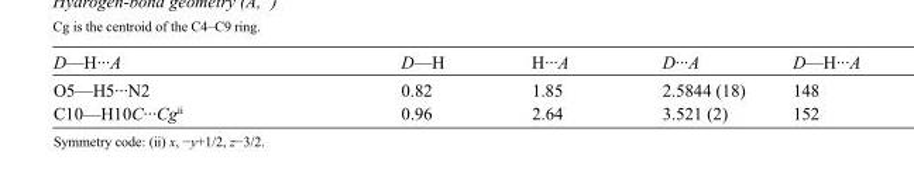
<table><tbody><tr><td>D—H···A</td><td>D—H</td><td>H···A</td><td>D···A</td><td>D—H···A</td></tr><tr><td>O5—H5···N2</td><td>0.82</td><td>1.85</td><td>2.5844 (18)</td><td>148</td></tr><tr><td>C10—H10C···Cg<sup>ii</sup></td><td>0.96</td><td>2.64</td><td>3.521 (2)</td><td>152</td></tr></tbody></table>